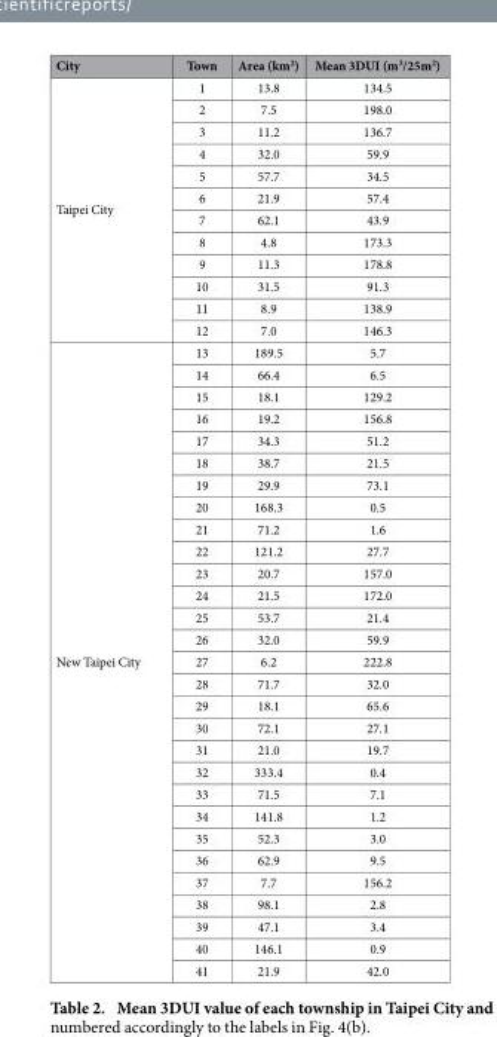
<table><thead><tr><td>City</td><td>Town</td><td>Area (km<sup>2</sup>)</td><td>Mean 3DUI (m<sup>3</sup>/25m<sup>2</sup>)</td></tr></thead><tbody><tr><td rowspan="12">Taipei City</td><td>1</td><td>13.8</td><td>134.5</td></tr><tr><td>2</td><td>7.5</td><td>198.0</td></tr><tr><td>3</td><td>11.2</td><td>136.7</td></tr><tr><td>4</td><td>32.0</td><td>59.9</td></tr><tr><td>5</td><td>57.7</td><td>34.5</td></tr><tr><td>6</td><td>21.9</td><td>57.4</td></tr><tr><td>7</td><td>62.1</td><td>43.9</td></tr><tr><td>8</td><td>4.8</td><td>173.3</td></tr><tr><td>9</td><td>11.3</td><td>178.8</td></tr><tr><td>10</td><td>31.5</td><td>91.3</td></tr><tr><td>11</td><td>8.9</td><td>138.9</td></tr><tr><td>12</td><td>7.0</td><td>146.3</td></tr><tr><td rowspan="29">New Taipei City</td><td>13</td><td>189.5</td><td>5.7</td></tr><tr><td>14</td><td>66.4</td><td>6.5</td></tr><tr><td>15</td><td>18.1</td><td>129.2</td></tr><tr><td>16</td><td>19.2</td><td>156.8</td></tr><tr><td>17</td><td>34.3</td><td>51.2</td></tr><tr><td>18</td><td>38.7</td><td>21.5</td></tr><tr><td>19</td><td>29.9</td><td>73.1</td></tr><tr><td>20</td><td>168.3</td><td>0.5</td></tr><tr><td>21</td><td>71.2</td><td>1.6</td></tr><tr><td>22</td><td>121.2</td><td>27.7</td></tr><tr><td>23</td><td>20.7</td><td>157.0</td></tr><tr><td>24</td><td>21.5</td><td>172.0</td></tr><tr><td>25</td><td>53.7</td><td>21.4</td></tr><tr><td>26</td><td>32.0</td><td>59.9</td></tr><tr><td>27</td><td>6.2</td><td>222.8</td></tr><tr><td>28</td><td>71.7</td><td>32.0</td></tr><tr><td>29</td><td>18.1</td><td>65.6</td></tr><tr><td>30</td><td>72.1</td><td>27.1</td></tr><tr><td>31</td><td>21.0</td><td>19.7</td></tr><tr><td>32</td><td>333.4</td><td>0.4</td></tr><tr><td>33</td><td>71.5</td><td>7.1</td></tr><tr><td>34</td><td>141.8</td><td>1.2</td></tr><tr><td>35</td><td>52.3</td><td>3.0</td></tr><tr><td>36</td><td>62.9</td><td>9.5</td></tr><tr><td>37</td><td>7.7</td><td>156.2</td></tr><tr><td>38</td><td>98.1</td><td>2.8</td></tr><tr><td>39</td><td>47.1</td><td>3.4</td></tr><tr><td>40</td><td>146.1</td><td>0.9</td></tr><tr><td>41</td><td>21.9</td><td>42.0</td></tr></tbody></table>